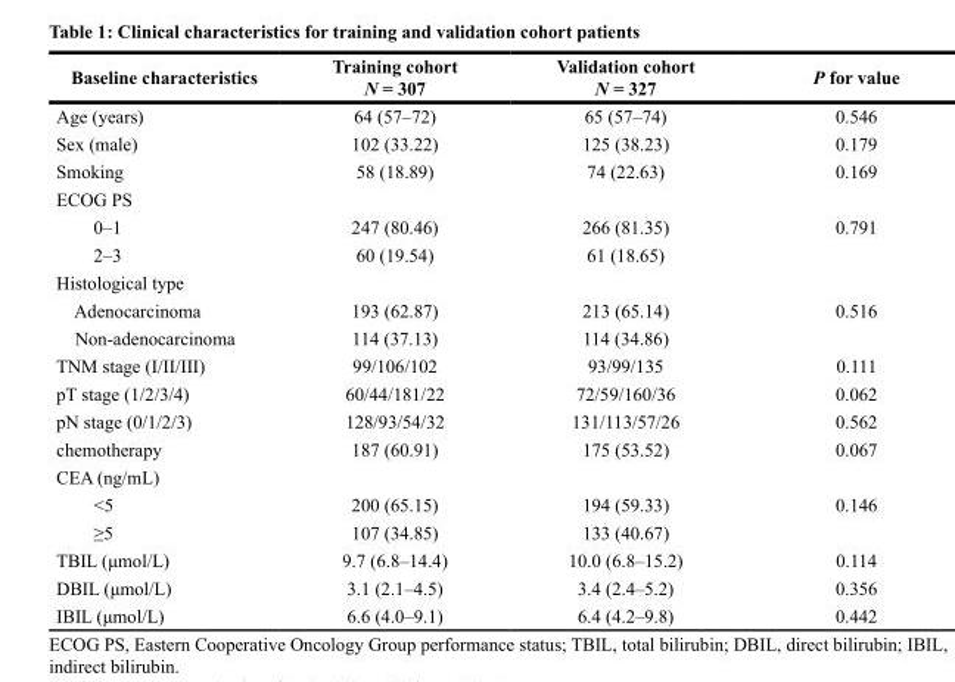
<table><thead><tr><td>Baseline characteristics</td><td>Training cohort N = 307</td><td>Validation cohort N = 327</td><td>P for value</td></tr></thead><tbody><tr><td>Age (years)</td><td>64 (57–72)</td><td>65 (57–74)</td><td>0.546</td></tr><tr><td>Sex (male)</td><td>102 (33.22)</td><td>125 (38.23)</td><td>0.179</td></tr><tr><td>Smoking</td><td>58 (18.89)</td><td>74 (22.63)</td><td>0.169</td></tr><tr><td colspan="4">ECOG PS</td></tr><tr><td>0–1</td><td>247 (80.46)</td><td>266 (81.35)</td><td>0.791</td></tr><tr><td>2–3</td><td>60 (19.54)</td><td>61 (18.65)</td><td></td></tr><tr><td colspan="4">Histological type</td></tr><tr><td>Adenocarcinoma</td><td>193 (62.87)</td><td>213 (65.14)</td><td>0.516</td></tr><tr><td>Non-adenocarcinoma</td><td>114 (37.13)</td><td>114 (34.86)</td><td></td></tr><tr><td>TNM stage (I/II/III)</td><td>99/106/102</td><td>93/99/135</td><td>0.111</td></tr><tr><td>pT stage (1/2/3/4)</td><td>60/44/181/22</td><td>72/59/160/36</td><td>0.062</td></tr><tr><td>pN stage (0/1/2/3)</td><td>128/93/54/32</td><td>131/113/57/26</td><td>0.562</td></tr><tr><td>chemotherapy</td><td>187 (60.91)</td><td>175 (53.52)</td><td>0.067</td></tr><tr><td colspan="4">CEA (ng/mL)</td></tr><tr><td>&lt;5</td><td>200 (65.15)</td><td>194 (59.33)</td><td>0.146</td></tr><tr><td>≥5</td><td>107 (34.85)</td><td>133 (40.67)</td><td></td></tr><tr><td>TBIL (μmol/L)</td><td>9.7 (6.8–14.4)</td><td>10.0 (6.8–15.2)</td><td>0.114</td></tr><tr><td>DBIL (μmol/L)</td><td>3.1 (2.1–4.5)</td><td>3.4 (2.4–5.2)</td><td>0.356</td></tr><tr><td>IBIL (μmol/L)</td><td>6.6 (4.0–9.1)</td><td>6.4 (4.2–9.8)</td><td>0.442</td></tr></tbody></table>